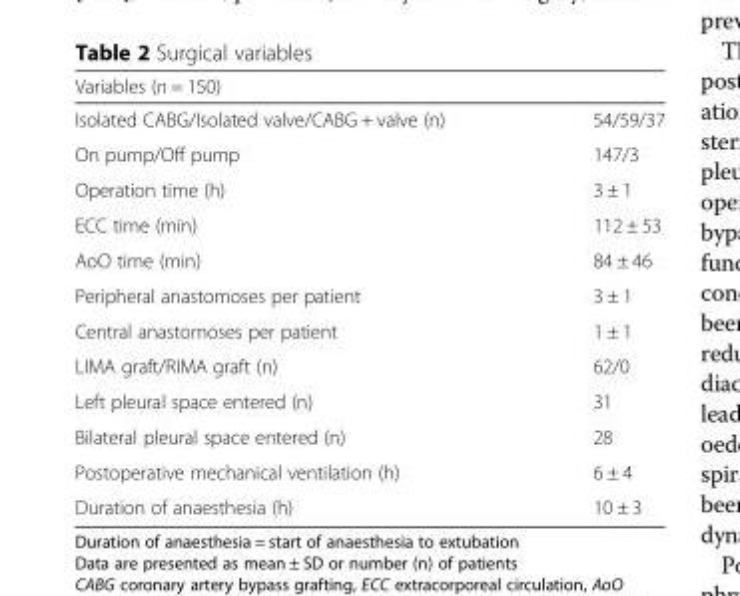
<table><thead><tr><td>Variables (n = 150)</td><td></td></tr></thead><tbody><tr><td>Isolated CABG/Isolated valve/CABG + valve (n)</td><td>54/59/37</td></tr><tr><td>On pump/Off pump</td><td>147/3</td></tr><tr><td>Operation time (h)</td><td>3 ± 1</td></tr><tr><td>ECC time (min)</td><td>112 ± 53</td></tr><tr><td>AoO time (min)</td><td>84 ± 46</td></tr><tr><td>Peripheral anastomoses per patient</td><td>3 ± 1</td></tr><tr><td>Central anastomoses per patient</td><td>1 ± 1</td></tr><tr><td>LIMA graft/RIMA graft (n)</td><td>62/0</td></tr><tr><td>Left pleural space entered (n)</td><td>31</td></tr><tr><td>Bilateral pleural space entered (n)</td><td>28</td></tr><tr><td>Postoperative mechanical ventilation (h)</td><td>6 ± 4</td></tr><tr><td>Duration of anaesthesia (h)</td><td>10 ± 3</td></tr></tbody></table>